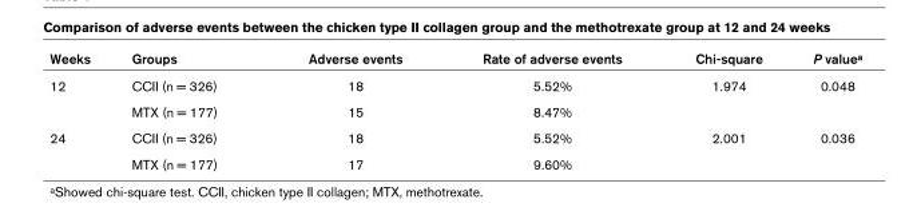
<table><thead><tr><td>Weeks</td><td>Groups</td><td>Adverse events</td><td>Rate of adverse events</td><td>Chi-square</td><td>P value<sup>a</sup></td></tr></thead><tbody><tr><td rowspan="2">12</td><td>CCII (n = 326)</td><td>18</td><td>5.52%</td><td>1.974</td><td>0.048</td></tr><tr><td>MTX (n = 177)</td><td>15</td><td>8.47%</td><td></td><td></td></tr><tr><td rowspan="2">24</td><td>CCII (n = 326)</td><td>18</td><td>5.52%</td><td>2.001</td><td>0.036</td></tr><tr><td>MTX (n = 177)</td><td>17</td><td>9.60%</td><td></td><td></td></tr></tbody></table>